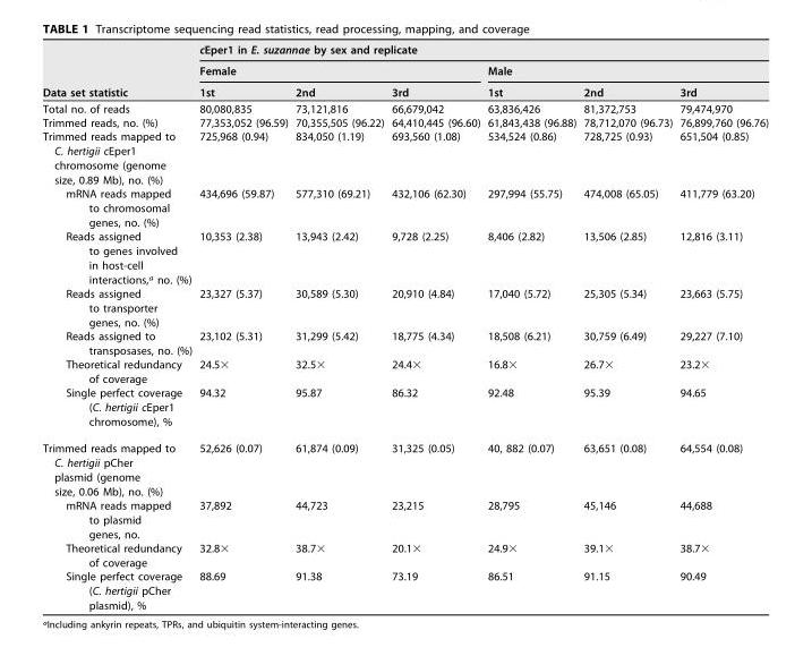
<table><thead><tr><td rowspan="3">Data set statistic</td><td colspan="6">cEper1 in E. suzannae by sex and replicate</td></tr><tr><td colspan="3">Female</td><td colspan="3">Male</td></tr><tr><td>1st</td><td>2nd</td><td>3rd</td><td>1st</td><td>2nd</td><td>3rd</td></tr></thead><tbody><tr><td>Total no. of reads</td><td>80,080,835</td><td>73,121,816</td><td>66,679,042</td><td>63,836,426</td><td>81,372,753</td><td>79,474,970</td></tr><tr><td>Trimmed reads, no. (%)</td><td>77,353,052 (96.59)</td><td>70,355,505 (96.22)</td><td>64,410,445 (96.60)</td><td>61,843,438 (96.88)</td><td>78,712,070 (96.73)</td><td>76,899,760 (96.76)</td></tr><tr><td>Trimmed reads mapped to C. hertigii cEper1 chromosome (genome size, 0.89 Mb), no. (%)</td><td>725,968 (0.94)</td><td>834,050 (1.19)</td><td>693,560 (1.08)</td><td>534,524 (0.86)</td><td>728,725 (0.93)</td><td>651,504 (0.85)</td></tr><tr><td>mRNA reads mapped to chromosomal genes, no. (%)</td><td>434,696 (59.87)</td><td>577,310 (69.21)</td><td>432,106 (62.30)</td><td>297,994 (55.75)</td><td>474,008 (65.05)</td><td>411,779 (63.20)</td></tr><tr><td>Reads assigned to genes involved in host-cell interactions,<sup>a</sup> no. (%)</td><td>10,353 (2.38)</td><td>13,943 (2.42)</td><td>9,728 (2.25)</td><td>8,406 (2.82)</td><td>13,506 (2.85)</td><td>12,816 (3.11)</td></tr><tr><td>Reads assigned to transporter genes, no. (%)</td><td>23,327 (5.37)</td><td>30,589 (5.30)</td><td>20,910 (4.84)</td><td>17,040 (5.72)</td><td>25,305 (5.34)</td><td>23,663 (5.75)</td></tr><tr><td>Reads assigned to transposases, no. (%)</td><td>23,102 (5.31)</td><td>31,299 (5.42)</td><td>18,775 (4.34)</td><td>18,508 (6.21)</td><td>30,759 (6.49)</td><td>29,227 (7.10)</td></tr><tr><td>Theoretical redundancy of coverage</td><td>24.5×</td><td>32.5×</td><td>24.4×</td><td>16.8×</td><td>26.7×</td><td>23.2×</td></tr><tr><td>Single perfect coverage (C. hertigii cEper1 chromosome), %</td><td>94.32</td><td>95.87</td><td>86.32</td><td>92.48</td><td>95.39</td><td>94.65</td></tr><tr><td>Trimmed reads mapped to C. hertigii pCher plasmid (genome size, 0.06 Mb), no. (%)</td><td>52,626 (0.07)</td><td>61,874 (0.09)</td><td>31,325 (0.05)</td><td>40, 882 (0.07)</td><td>63,651 (0.08)</td><td>64,554 (0.08)</td></tr><tr><td>mRNA reads mapped to plasmid genes, no.</td><td>37,892</td><td>44,723</td><td>23,215</td><td>28,795</td><td>45,146</td><td>44,688</td></tr><tr><td>Theoretical redundancy of coverage</td><td>32.8×</td><td>38.7×</td><td>20.1×</td><td>24.9×</td><td>39.1×</td><td>38.7×</td></tr><tr><td>Single perfect coverage (C. hertigii pCher plasmid), %</td><td>88.69</td><td>91.38</td><td>73.19</td><td>86.51</td><td>91.15</td><td>90.49</td></tr></tbody></table>